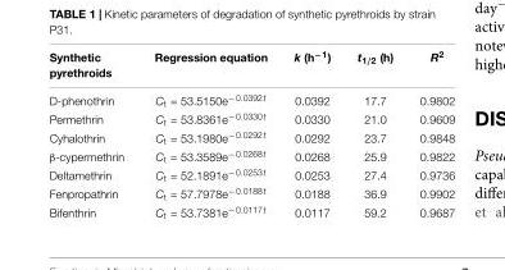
<table><thead><tr><td>Synthetic pyrethroids</td><td>Regression equation</td><td>k (h<sup>−1</sup>)</td><td>t<sub>1/2</sub> (h)</td><td>R<sup>2</sup></td></tr></thead><tbody><tr><td>D-phenothrin</td><td>C<sub>t</sub> = 53.5150e<sup>−0.0392t</sup></td><td>0.0392</td><td>17.7</td><td>0.9802</td></tr><tr><td>Permethrin</td><td>C<sub>t</sub> = 53.8361e<sup>−0.0330t</sup></td><td>0.0330</td><td>21.0</td><td>0.9609</td></tr><tr><td>Cyhalothrin</td><td>C<sub>t</sub> = 53.1980e<sup>−0.0292t</sup></td><td>0.0292</td><td>23.7</td><td>0.9848</td></tr><tr><td>β-cypermethrin</td><td>C<sub>t</sub> = 53.3589e<sup>−0.0268t</sup></td><td>0.0268</td><td>25.9</td><td>0.9822</td></tr><tr><td>Deltamethrin</td><td>C<sub>t</sub> = 52.1891e<sup>−0.0253t</sup></td><td>0.0253</td><td>27.4</td><td>0.9736</td></tr><tr><td>Fenpropathrin</td><td>C<sub>t</sub> = 57.7978e<sup>−0.0188t</sup></td><td>0.0188</td><td>36.9</td><td>0.9902</td></tr><tr><td>Bifenthrin</td><td>C<sub>t</sub> = 53.7381e<sup>−0.0117t</sup></td><td>0.0117</td><td>59.2</td><td>0.9687</td></tr></tbody></table>